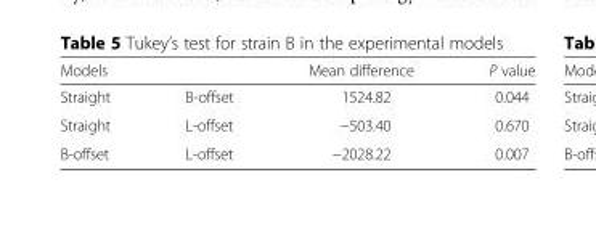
<table><thead><tr><td colspan="2">Models</td><td rowspan="2">Mean difference 1524.82</td><td rowspan="2">P value 0.044</td></tr><tr><td>Straight</td><td>B-offset</td></tr></thead><tbody><tr><td>Straight</td><td>L-offset</td><td>−503.40</td><td>0.670</td></tr><tr><td>B-offset</td><td>L-offset</td><td>−2028.22</td><td>0.007</td></tr></tbody></table>